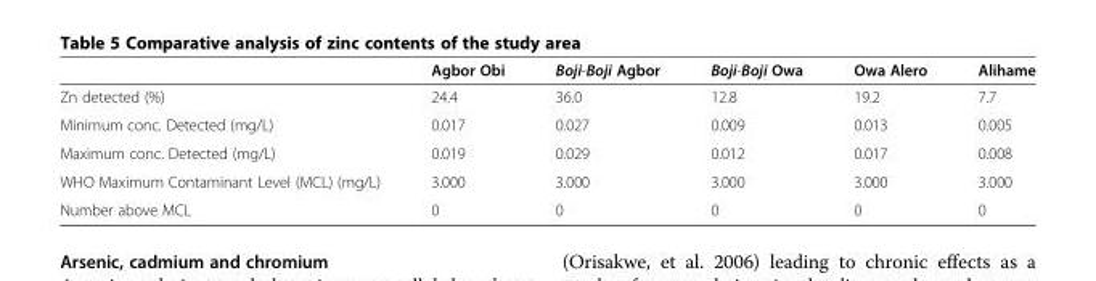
<table><thead><tr><td></td><td>Agbor Obi</td><td>Boji-Boji Agbor</td><td>Boji-Boji Owa</td><td>Owa Alero</td><td>Alihame</td></tr></thead><tbody><tr><td>Zn detected (%)</td><td>24.4</td><td>36.0</td><td>12.8</td><td>19.2</td><td>7.7</td></tr><tr><td>Minimum conc. Detected (mg/L)</td><td>0.017</td><td>0.027</td><td>0.009</td><td>0.013</td><td>0.005</td></tr><tr><td>Maximum conc. Detected (mg/L)</td><td>0.019</td><td>0.029</td><td>0.012</td><td>0.017</td><td>0.008</td></tr><tr><td>WHO Maximum Contaminant Level (MCL) (mg/L)</td><td>3.000</td><td>3.000</td><td>3.000</td><td>3.000</td><td>3.000</td></tr><tr><td>Number above MCL</td><td>0</td><td>0</td><td>0</td><td>0</td><td>0</td></tr></tbody></table>